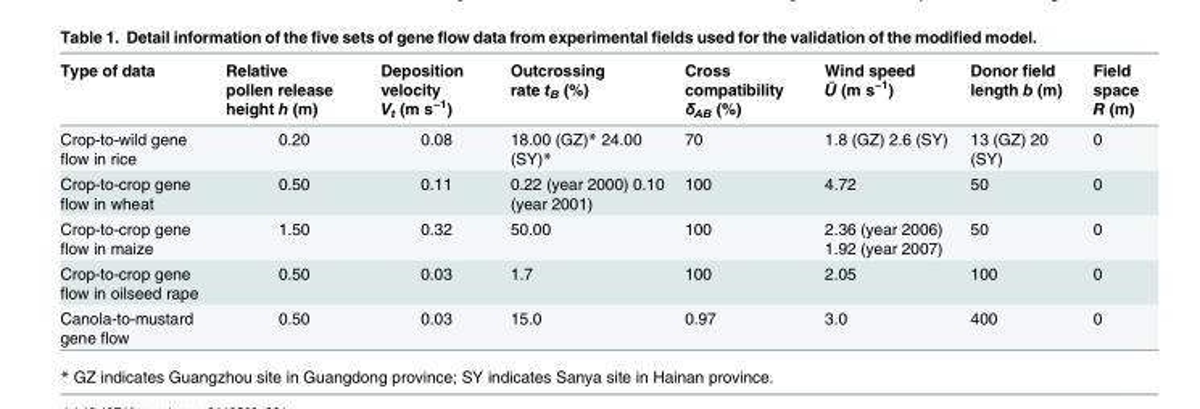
<table><thead><tr><td>Type of data</td><td>Relative pollen release height h (m)</td><td>Deposition velocity V<sub>t</sub> (m s<sup>−1</sup>)</td><td>Outcrossing rate t<sub>B</sub> (%)</td><td>Cross compatibility δ<sub>AB</sub> (%)</td><td>Wind speed Ū (m s<sup>−1</sup>)</td><td>Donor field length b (m)</td><td>Field space R (m)</td></tr></thead><tbody><tr><td>Crop-to-wild gene flow in rice</td><td>0.20</td><td>0.08</td><td>18.00 (GZ)* 24.00 (SY)*</td><td>70</td><td>1.8 (GZ) 2.6 (SY)</td><td>13 (GZ) 20 (SY)</td><td>0</td></tr><tr><td>Crop-to-crop gene flow in wheat</td><td>0.50</td><td>0.11</td><td>0.22 (year 2000) 0.10 (year 2001)</td><td>100</td><td>4.72</td><td>50</td><td>0</td></tr><tr><td>Crop-to-crop gene flow in maize</td><td>1.50</td><td>0.32</td><td>50.00</td><td>100</td><td>2.36 (year 2006) 1.92 (year 2007)</td><td>50</td><td>0</td></tr><tr><td>Crop-to-crop gene flow in oilseed rape</td><td>0.50</td><td>0.03</td><td>1.7</td><td>100</td><td>2.05</td><td>100</td><td>0</td></tr><tr><td>Canola-to-mustard gene flow</td><td>0.50</td><td>0.03</td><td>15.0</td><td>0.97</td><td>3.0</td><td>400</td><td>0</td></tr></tbody></table>